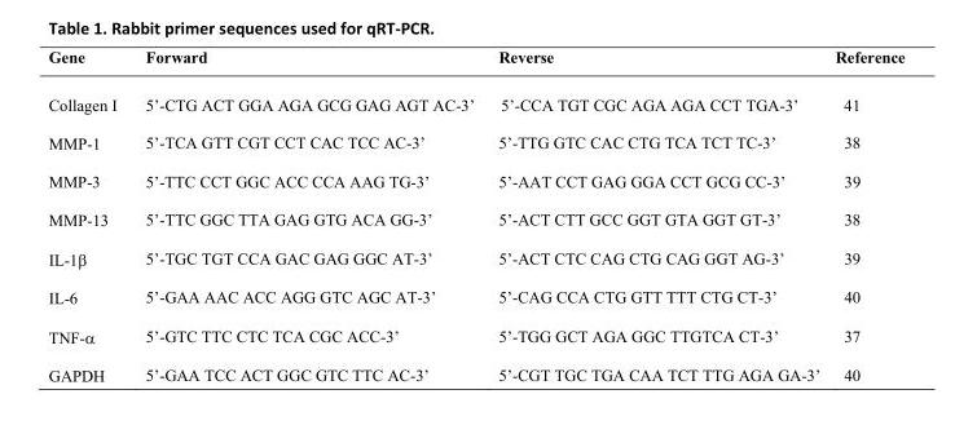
<table><tbody><tr><td>Gene</td><td>Forward</td><td>Reverse</td><td>Reference</td></tr><tr><td>Collagen I</td><td>5’-CTG ACT GGA AGA GCG GAG AGT AC-3’</td><td>5’-CCA TGT CGC AGA AGA CCT TGA-3’</td><td>41</td></tr><tr><td>MMP-1</td><td>5’-TCA GTT CGT CCT CAC TCC AC-3’</td><td>5’-TTG GTC CAC CTG TCA TCT TC-3’</td><td>38</td></tr><tr><td>MMP-3</td><td>5’-TTC CCT GGC ACC CCA AAG TG-3’</td><td>5’-AAT CCT GAG GGA CCT GCG CC-3’</td><td>39</td></tr><tr><td>MMP-13</td><td>5’-TTC GGC TTA GAG GTG ACA GG-3’</td><td>5’-ACT CTT GCC GGT GTA GGT GT-3’</td><td>38</td></tr><tr><td>IL-1β</td><td>5’-TGC TGT CCA GAC GAG GGC AT-3’</td><td>5’-ACT CTC CAG CTG CAG GGT AG-3’</td><td>39</td></tr><tr><td>IL-6</td><td>5’-GAA AAC ACC AGG GTC AGC AT-3’</td><td>5’-CAG CCA CTG GTT TTT CTG CT-3’</td><td>40</td></tr><tr><td>TNF-α</td><td>5’-GTC TTC CTC TCA CGC ACC-3’</td><td>5’-TGG GCT AGA GGC TTGTCA CT-3’</td><td>37</td></tr><tr><td>GAPDH</td><td>5’-GAA TCC ACT GGC GTC TTC AC-3’</td><td>5’-CGT TGC TGA CAA TCT TTG AGA GA-3’</td><td>40</td></tr></tbody></table>